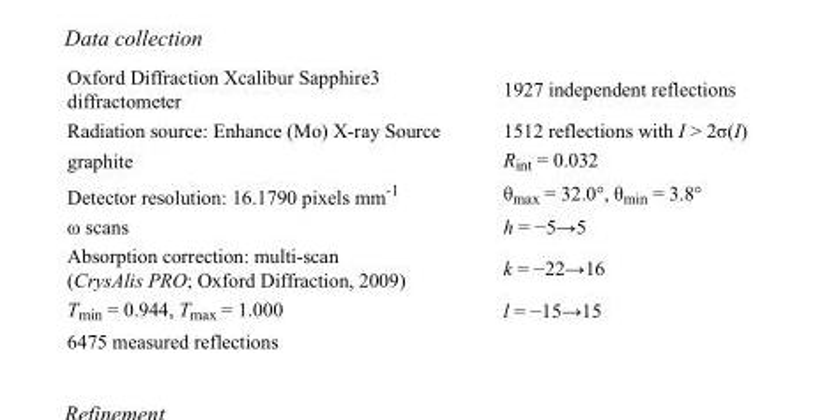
<table><tbody><tr><td>Oxford Diffraction Xcalibur Sapphire3 diffractometer</td><td>1927 independent reflections</td></tr><tr><td>Radiation source: Enhance (Mo) X-ray Source</td><td>1512 reflections with I &gt; 2σ(I)</td></tr><tr><td>graphite</td><td>R<sub>int</sub> = 0.032</td></tr><tr><td>Detector resolution: 16.1790 pixels mm<sup>-1</sup></td><td>θ<sub>max</sub> = 32.0°, θ<sub>min</sub> = 3.8°</td></tr><tr><td>ω scans</td><td>h = −5→5</td></tr><tr><td>Absorption correction: multi-scan (CrysAlis PRO; Oxford Diffraction, 2009)</td><td>k = −22→16</td></tr><tr><td>T<sub>min</sub> = 0.944, T<sub>max</sub> = 1.000</td><td>l = −15→15</td></tr><tr><td>6475 measured reflections</td><td></td></tr></tbody></table>